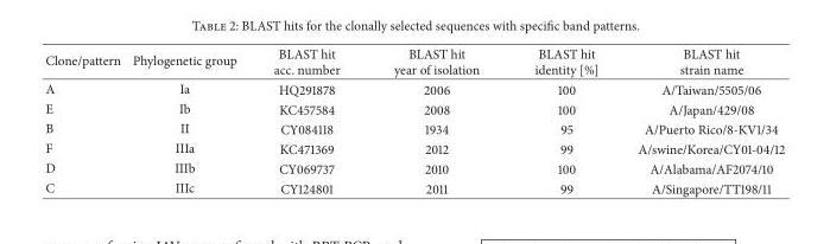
<table><thead><tr><td>Clone/pattern</td><td>Phylogenetic group</td><td>BLAST hit acc. number</td><td>BLAST hit year of isolation</td><td>BLAST hit identity [%]</td><td>BLAST hit strain name</td></tr></thead><tbody><tr><td>A</td><td>Ia</td><td>HQ291878</td><td>2006</td><td>100</td><td>A/Taiwan/5505/06</td></tr><tr><td>E</td><td>Ib</td><td>KC457584</td><td>2008</td><td>100</td><td>A/Japan/429/08</td></tr><tr><td>B</td><td>II</td><td>CY084118</td><td>1934</td><td>95</td><td>A/Puerto Rico/8-KV1/34</td></tr><tr><td>F</td><td>IIIa</td><td>KC471369</td><td>2012</td><td>99</td><td>A/swine/Korea/CY01-04/12</td></tr><tr><td>D</td><td>IIIb</td><td>CY069737</td><td>2010</td><td>100</td><td>A/Alabama/AF2074/10</td></tr><tr><td>C</td><td>IIIc</td><td>CY124801</td><td>2011</td><td>99</td><td>A/Singapore/TT198/11</td></tr></tbody></table>